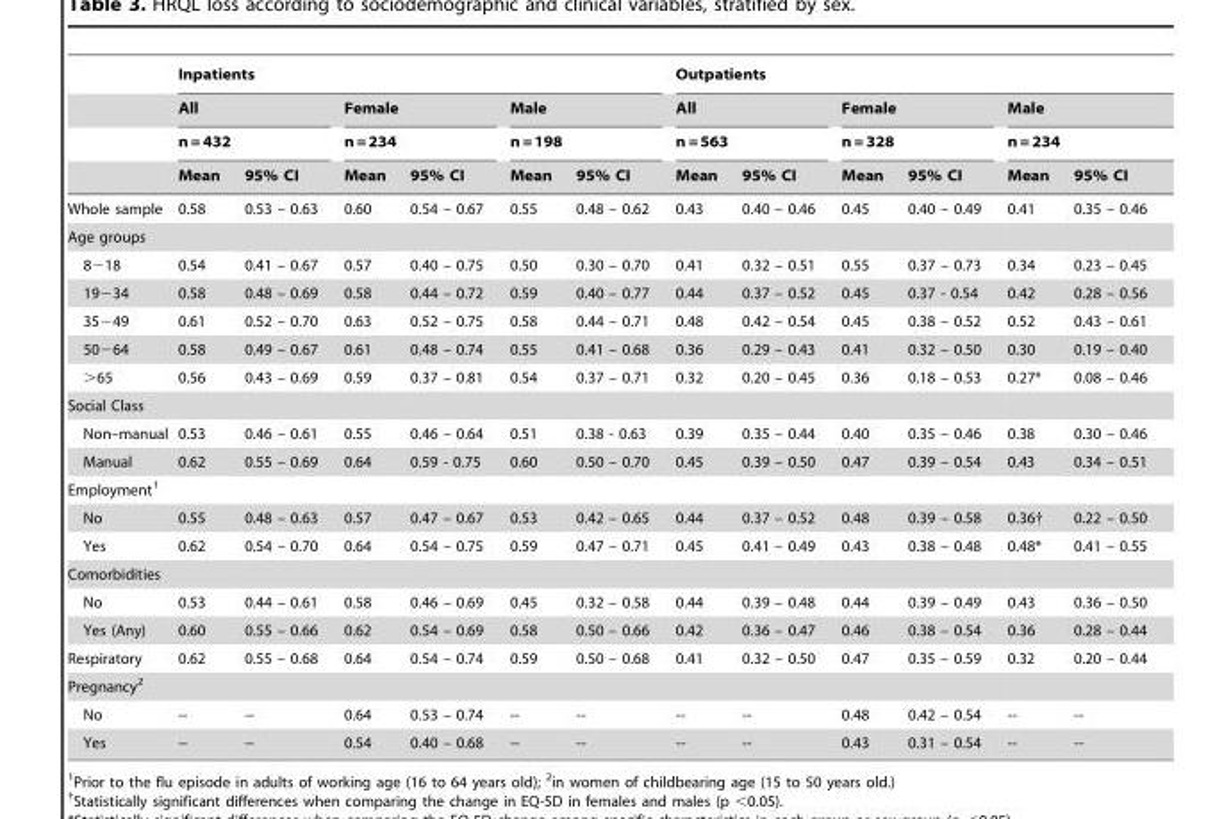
<table><thead><tr><td rowspan="4"></td><td colspan="6">Inpatients</td><td colspan="6">Outpatients</td></tr><tr><td rowspan="2" colspan="2">All n = 432</td><td rowspan="2" colspan="2">Female n = 234</td><td rowspan="2" colspan="2">Male n = 198</td><td rowspan="2" colspan="2">All n = 563</td><td rowspan="2" colspan="2">Female n = 328</td><td rowspan="2" colspan="2">Male n = 234</td></tr><tr></tr><tr><td>Mean</td><td>95% CI</td><td>Mean</td><td>95% CI</td><td>Mean</td><td>95% CI</td><td>Mean</td><td>95% CI</td><td>Mean</td><td>95% CI</td><td>Mean</td><td>95% CI</td></tr></thead><tbody><tr><td>Whole sample</td><td>0.58</td><td>0.53 – 0.63</td><td>0.60</td><td>0.54 – 0.67</td><td>0.55</td><td>0.48 – 0.62</td><td>0.43</td><td>0.40 – 0.46</td><td>0.45</td><td>0.40 – 0.49</td><td>0.41</td><td>0.35 – 0.46</td></tr><tr><td colspan="13">Age groups</td></tr><tr><td>8−18</td><td>0.54</td><td>0.41 – 0.67</td><td>0.57</td><td>0.40 – 0.75</td><td>0.50</td><td>0.30 – 0.70</td><td>0.41</td><td>0.32 – 0.51</td><td>0.55</td><td>0.37 – 0.73</td><td>0.34</td><td>0.23 – 0.45</td></tr><tr><td>19−34</td><td>0.58</td><td>0.48 – 0.69</td><td>0.58</td><td>0.44 – 0.72</td><td>0.59</td><td>0.40 – 0.77</td><td>0.44</td><td>0.37 – 0.52</td><td>0.45</td><td>0.37 - 0.54</td><td>0.42</td><td>0.28 – 0.56</td></tr><tr><td>35−49</td><td>0.61</td><td>0.52 – 0.70</td><td>0.63</td><td>0.52 – 0.75</td><td>0.58</td><td>0.44 – 0.71</td><td>0.48</td><td>0.42 – 0.54</td><td>0.45</td><td>0.38 – 0.52</td><td>0.52</td><td>0.43 – 0.61</td></tr><tr><td>50−64</td><td>0.58</td><td>0.49 – 0.67</td><td>0.61</td><td>0.48 – 0.74</td><td>0.55</td><td>0.41 – 0.68</td><td>0.36</td><td>0.29 – 0.43</td><td>0.41</td><td>0.32 – 0.50</td><td>0.30</td><td>0.19 – 0.40</td></tr><tr><td>&gt;65</td><td>0.56</td><td>0.43 – 0.69</td><td>0.59</td><td>0.37 – 0.81</td><td>0.54</td><td>0.37 – 0.71</td><td>0.32</td><td>0.20 – 0.45</td><td>0.36</td><td>0.18 – 0.53</td><td>0.27*</td><td>0.08 – 0.46</td></tr><tr><td colspan="13">Social Class</td></tr><tr><td>Non–manual</td><td>0.53</td><td>0.46 – 0.61</td><td>0.55</td><td>0.46 – 0.64</td><td>0.51</td><td>0.38 - 0.63</td><td>0.39</td><td>0.35 – 0.44</td><td>0.40</td><td>0.35 – 0.46</td><td>0.38</td><td>0.30 – 0.46</td></tr><tr><td>Manual</td><td>0.62</td><td>0.55 – 0.69</td><td>0.64</td><td>0.59 - 0.75</td><td>0.60</td><td>0.50 – 0.70</td><td>0.45</td><td>0.39 – 0.50</td><td>0.47</td><td>0.39 – 0.54</td><td>0.43</td><td>0.34 – 0.51</td></tr><tr><td colspan="13">Employment<sup>1</sup></td></tr><tr><td>No</td><td>0.55</td><td>0.48 – 0.63</td><td>0.57</td><td>0.47 – 0.67</td><td>0.53</td><td>0.42 – 0.65</td><td>0.44</td><td>0.37 – 0.52</td><td>0.48</td><td>0.39 – 0.58</td><td>0.36†</td><td>0.22 – 0.50</td></tr><tr><td>Yes</td><td>0.62</td><td>0.54 – 0.70</td><td>0.64</td><td>0.54 – 0.75</td><td>0.59</td><td>0.47 – 0.71</td><td>0.45</td><td>0.41 – 0.49</td><td>0.43</td><td>0.38 – 0.48</td><td>0.48*</td><td>0.41 – 0.55</td></tr><tr><td colspan="13">Comorbidities</td></tr><tr><td>No</td><td>0.53</td><td>0.44 – 0.61</td><td>0.58</td><td>0.46 – 0.69</td><td>0.45</td><td>0.32 – 0.58</td><td>0.44</td><td>0.39 – 0.48</td><td>0.44</td><td>0.39 – 0.49</td><td>0.43</td><td>0.36 – 0.50</td></tr><tr><td>Yes (Any)</td><td>0.60</td><td>0.55 – 0.66</td><td>0.62</td><td>0.54 – 0.69</td><td>0.58</td><td>0.50 – 0.66</td><td>0.42</td><td>0.36 – 0.47</td><td>0.46</td><td>0.38 – 0.54</td><td>0.36</td><td>0.28 – 0.44</td></tr><tr><td>Respiratory</td><td>0.62</td><td>0.55 – 0.68</td><td>0.64</td><td>0.54 – 0.74</td><td>0.59</td><td>0.50 – 0.68</td><td>0.41</td><td>0.32 – 0.50</td><td>0.47</td><td>0.35 – 0.59</td><td>0.32</td><td>0.20 – 0.44</td></tr><tr><td colspan="13">Pregnancy<sup>2</sup></td></tr><tr><td>No</td><td>--</td><td>--</td><td>0.64</td><td>0.53 – 0.74</td><td>--</td><td>--</td><td>--</td><td>--</td><td>0.48</td><td>0.42 – 0.54</td><td>--</td><td>--</td></tr><tr><td>Yes</td><td>--</td><td>--</td><td>0.54</td><td>0.40 – 0.68</td><td>--</td><td>--</td><td>--</td><td>--</td><td>0.43</td><td>0.31 – 0.54</td><td>--</td><td>--</td></tr></tbody></table>